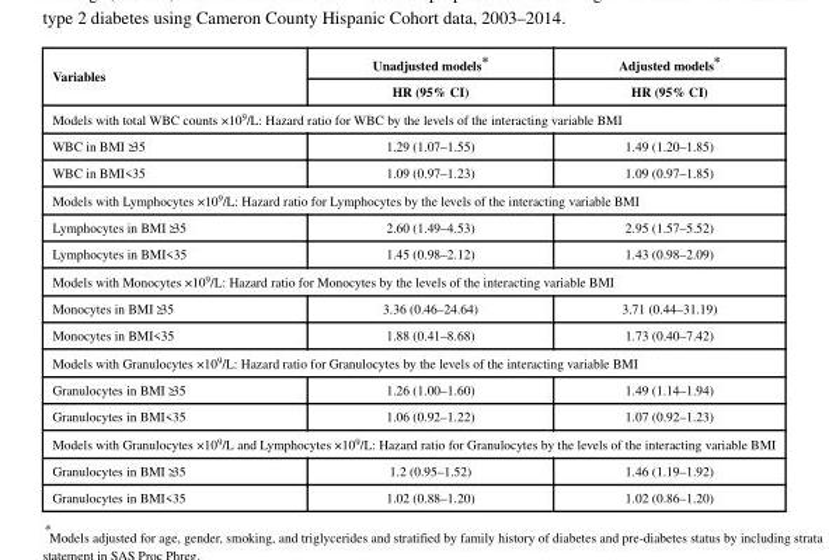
<table><thead><tr><td rowspan="2">Variables</td><td rowspan="2">Unadjusted models* HR (95% CI)</td><td rowspan="2">Adjusted models* HR (95% CI)</td></tr><tr></tr></thead><tbody><tr><td colspan="3">Models with total WBC counts ×10<sup>9</sup>/L: Hazard ratio for WBC by the levels of the interacting variable BMI</td></tr><tr><td>WBC in BMI≥35</td><td>1.29 (1.07–1.55)</td><td>1.49 (1.20–1.85)</td></tr><tr><td>WBC in BMI&lt;35</td><td>1.09 (0.97–1.23)</td><td>1.09 (0.97–1.85)</td></tr><tr><td colspan="3">Models with Lymphocytes ×10<sup>9</sup>/L: Hazard ratio for Lymphocytes by the levels of the interacting variable BMI</td></tr><tr><td>Lymphocytes in BMI≥35</td><td>2.60 (1.49–4.53)</td><td>2.95 (1.57–5.52)</td></tr><tr><td>Lymphocytes in BMI&lt;35</td><td>1.45 (0.98–2.12)</td><td>1.43 (0.98–2.09)</td></tr><tr><td colspan="3">Models with Monocytes ×10<sup>9</sup>/L: Hazard ratio for Monocytes by the levels of the interacting variable BMI</td></tr><tr><td>Monocytes in BMI≥35</td><td>3.36 (0.46–24.64)</td><td>3.71 (0.44–31.19)</td></tr><tr><td>Monocytes in BMI&lt;35</td><td>1.88 (0.41–8.68)</td><td>1.73 (0.40–7.42)</td></tr><tr><td colspan="3">Models with Granulocytes ×10<sup>9</sup>/L: Hazard ratio for Granulocytes by the levels of the interacting variable BMI</td></tr><tr><td>Granulocytes in BMI≥35</td><td>1.26 (1.00–1.60)</td><td>1.49 (1.14–1.94)</td></tr><tr><td>Granulocytes in BMI&lt;35</td><td>1.06 (0.92–1.22)</td><td>1.07 (0.92–1.23)</td></tr><tr><td colspan="3">Models with Granulocytes ×10<sup>9</sup>/L and Lymphocytes ×10<sup>9</sup>/L: Hazard ratio for Granulocytes by the levels of the interacting variable BMI</td></tr><tr><td>Granulocytes in BMI≥35</td><td>1.2 (0.95–1.52)</td><td>1.46 (1.19–1.92)</td></tr><tr><td>Granulocytes in BMI&lt;35</td><td>1.02 (0.88–1.20)</td><td>1.02 (0.86–1.20)</td></tr></tbody></table>